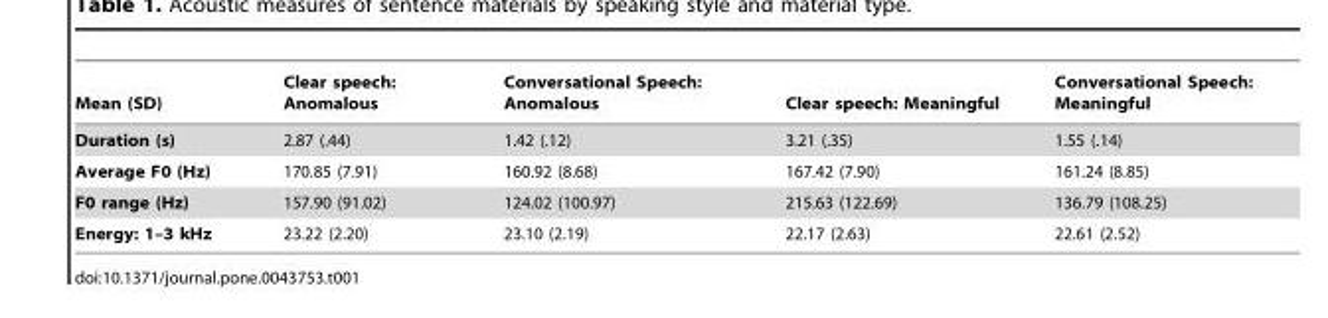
<table><thead><tr><td>Mean (SD)</td><td>Clear speech: Anomalous</td><td>Conversational Speech: Anomalous</td><td>Clear speech: Meaningful</td><td>Conversational Speech: Meaningful</td></tr></thead><tbody><tr><td>Duration (s)</td><td>2.87 (.44)</td><td>1.42 (.12)</td><td>3.21 (.35)</td><td>1.55 (.14)</td></tr><tr><td>Average F0 (Hz)</td><td>170.85 (7.91)</td><td>160.92 (8.68)</td><td>167.42 (7.90)</td><td>161.24 (8.85)</td></tr><tr><td>F0 range (Hz)</td><td>157.90 (91.02)</td><td>124.02 (100.97)</td><td>215.63 (122.69)</td><td>136.79 (108.25)</td></tr><tr><td>Energy: 1–3 kHz</td><td>23.22 (2.20)</td><td>23.10 (2.19)</td><td>22.17 (2.63)</td><td>22.61 (2.52)</td></tr></tbody></table>